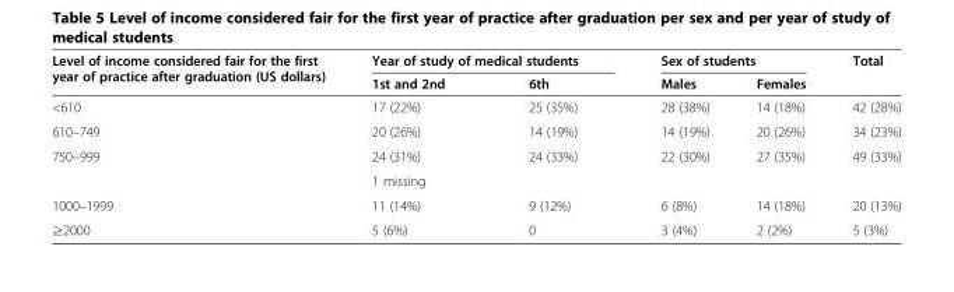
<table><thead><tr><td rowspan="2">Level of income considered fair for the first year of practice after graduation (US dollars)</td><td colspan="2">Year of study of medical students</td><td colspan="2">Sex of students</td><td rowspan="2">Total</td></tr><tr><td>1st and 2nd</td><td>6th</td><td>Males</td><td>Females</td></tr></thead><tbody><tr><td>&lt;610</td><td>17 (22%)</td><td>25 (35%)</td><td>28 (38%)</td><td>14 (18%)</td><td>42 (28%)</td></tr><tr><td>610–749</td><td>20 (26%)</td><td>14 (19%)</td><td>14 (19%)</td><td>20 (26%)</td><td>34 (23%)</td></tr><tr><td rowspan="2">750–999</td><td>24 (31%)</td><td>24 (33%)</td><td rowspan="2">22 (30%)</td><td rowspan="2">27 (35%)</td><td rowspan="2">49 (33%)</td></tr><tr><td colspan="2">1 missing</td></tr><tr><td>1000–1999</td><td>11 (14%)</td><td>9 (12%)</td><td>6 (8%)</td><td>14 (18%)</td><td>20 (13%)</td></tr><tr><td>≥2000</td><td>5 (6%)</td><td>0</td><td>3 (4%)</td><td>2 (2%)</td><td>5 (3%)</td></tr></tbody></table>